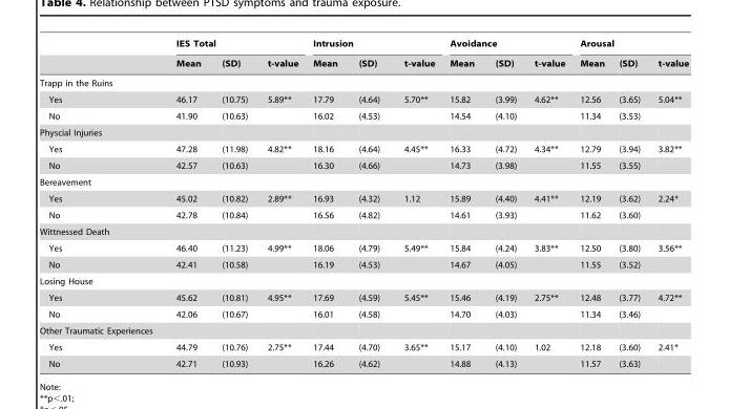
<table><thead><tr><td rowspan="2"></td><td colspan="3">IES Total</td><td colspan="3">Intrusion</td><td colspan="3">Avoidance</td><td colspan="3">Arousal</td></tr><tr><td>Mean</td><td>(SD)</td><td>t-value</td><td>Mean</td><td>(SD)</td><td>t-value</td><td>Mean</td><td>(SD)</td><td>t-value</td><td>Mean</td><td>(SD)</td><td>t-value</td></tr></thead><tbody><tr><td colspan="13">Trapp in the Ruins</td></tr><tr><td>Yes</td><td>46.17</td><td>(10.75)</td><td>5.89**</td><td>17.79</td><td>(4.64)</td><td>5.70**</td><td>15.82</td><td>(3.99)</td><td>4.62**</td><td>12.56</td><td>(3.65)</td><td>5.04**</td></tr><tr><td>No</td><td>41.90</td><td>(10.63)</td><td></td><td>16.02</td><td>(4.53)</td><td></td><td>14.54</td><td>(4.10)</td><td></td><td>11.34</td><td>(3.53)</td><td></td></tr><tr><td colspan="13">Physcial Injuries</td></tr><tr><td>Yes</td><td>47.28</td><td>(11.98)</td><td>4.82**</td><td>18.16</td><td>(4.64)</td><td>4.45**</td><td>16.33</td><td>(4.72)</td><td>4.34**</td><td>12.79</td><td>(3.94)</td><td>3.82**</td></tr><tr><td>No</td><td>42.57</td><td>(10.63)</td><td></td><td>16.30</td><td>(4.66)</td><td></td><td>14.73</td><td>(3.98)</td><td></td><td>11.55</td><td>(3.55)</td><td></td></tr><tr><td colspan="13">Bereavement</td></tr><tr><td>Yes</td><td>45.02</td><td>(10.82)</td><td>2.89**</td><td>16.93</td><td>(4.32)</td><td>1.12</td><td>15.89</td><td>(4.40)</td><td>4.41**</td><td>12.19</td><td>(3.62)</td><td>2.24*</td></tr><tr><td>No</td><td>42.78</td><td>(10.84)</td><td></td><td>16.56</td><td>(4.82)</td><td></td><td>14.61</td><td>(3.93)</td><td></td><td>11.62</td><td>(3.60)</td><td></td></tr><tr><td colspan="13">Wittnessed Death</td></tr><tr><td>Yes</td><td>46.40</td><td>(11.23)</td><td>4.99**</td><td>18.06</td><td>(4.79)</td><td>5.49**</td><td>15.84</td><td>(4.24)</td><td>3.83**</td><td>12.50</td><td>(3.80)</td><td>3.56**</td></tr><tr><td>No</td><td>42.41</td><td>(10.58)</td><td></td><td>16.19</td><td>(4.53)</td><td></td><td>14.67</td><td>(4.05)</td><td></td><td>11.55</td><td>(3.52)</td><td></td></tr><tr><td colspan="13">Losing House</td></tr><tr><td>Yes</td><td>45.62</td><td>(10.81)</td><td>4.95**</td><td>17.69</td><td>(4.59)</td><td>5.45**</td><td>15.46</td><td>(4.19)</td><td>2.75**</td><td>12.48</td><td>(3.77)</td><td>4.72**</td></tr><tr><td>No</td><td>42.06</td><td>(10.67)</td><td></td><td>16.01</td><td>(4.58)</td><td></td><td>14.70</td><td>(4.03)</td><td></td><td>11.34</td><td>(3.46)</td><td></td></tr><tr><td colspan="13">Other Traumatic Experiences</td></tr><tr><td>Yes</td><td>44.79</td><td>(10.76)</td><td>2.75**</td><td>17.44</td><td>(4.70)</td><td>3.65**</td><td>15.17</td><td>(4.10)</td><td>1.02</td><td>12.18</td><td>(3.60)</td><td>2.41*</td></tr><tr><td>No</td><td>42.71</td><td>(10.93)</td><td></td><td>16.26</td><td>(4.62)</td><td></td><td>14.88</td><td>(4.13)</td><td></td><td>11.57</td><td>(3.63)</td><td></td></tr></tbody></table>